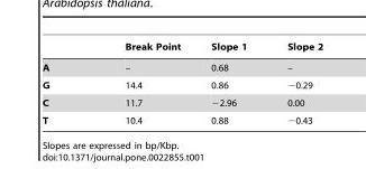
<table><thead><tr><td></td><td>Break Point</td><td>Slope 1</td><td>Slope 2</td></tr></thead><tbody><tr><td>A</td><td>–</td><td>0.68</td><td>–</td></tr><tr><td>G</td><td>14.4</td><td>0.86</td><td>−0.29</td></tr><tr><td>C</td><td>11.7</td><td>−2.96</td><td>0.00</td></tr><tr><td>T</td><td>10.4</td><td>0.88</td><td>−0.43</td></tr></tbody></table>